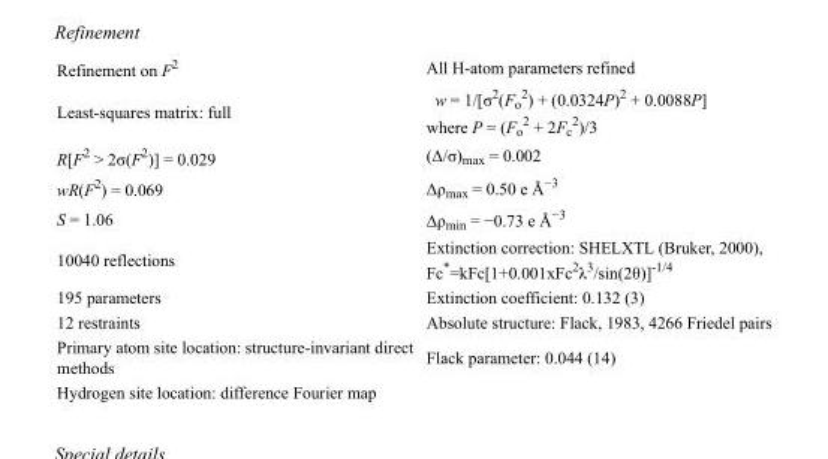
<table><tbody><tr><td>Refinement on F<sup>2</sup></td><td>All H-atom parameters refined</td></tr><tr><td>Least-squares matrix: full</td><td>w = 1/[σ<sup>2</sup>(F<sub>o</sub> <sup>2</sup>) + (0.0324P)<sup>2</sup> + 0.0088P] where P = (F<sub>o</sub> <sup>2</sup> + 2F<sub>c</sub> <sup>2</sup>)/3</td></tr><tr><td>R[F<sup>2</sup> &gt; 2σ(F<sup>2</sup>)] = 0.029</td><td>(Δ/σ)<sub>max</sub> = 0.002</td></tr><tr><td>wR(F<sup>2</sup>) = 0.069</td><td>Δρ<sub>max</sub> = 0.50 e Å<sup>−3</sup></td></tr><tr><td>S = 1.06</td><td>Δρ<sub>min</sub> = −0.73 e Å<sup>−3</sup></td></tr><tr><td>10040 reflections</td><td>Extinction correction: SHELXTL (Bruker, 2000), Fc*=kFc[1+0.001xFc<sup>2</sup>λ<sup>3</sup>/sin(2θ)]<sup>-1/4</sup></td></tr><tr><td>195 parameters</td><td>Extinction coefficient: 0.132 (3)</td></tr><tr><td>12 restraints</td><td>Absolute structure: Flack, 1983, 4266 Friedel pairs</td></tr><tr><td>Primary atom site location: structure-invariant direct methods</td><td>Flack parameter: 0.044 (14)</td></tr><tr><td>Hydrogen site location: difference Fourier map</td><td></td></tr></tbody></table>